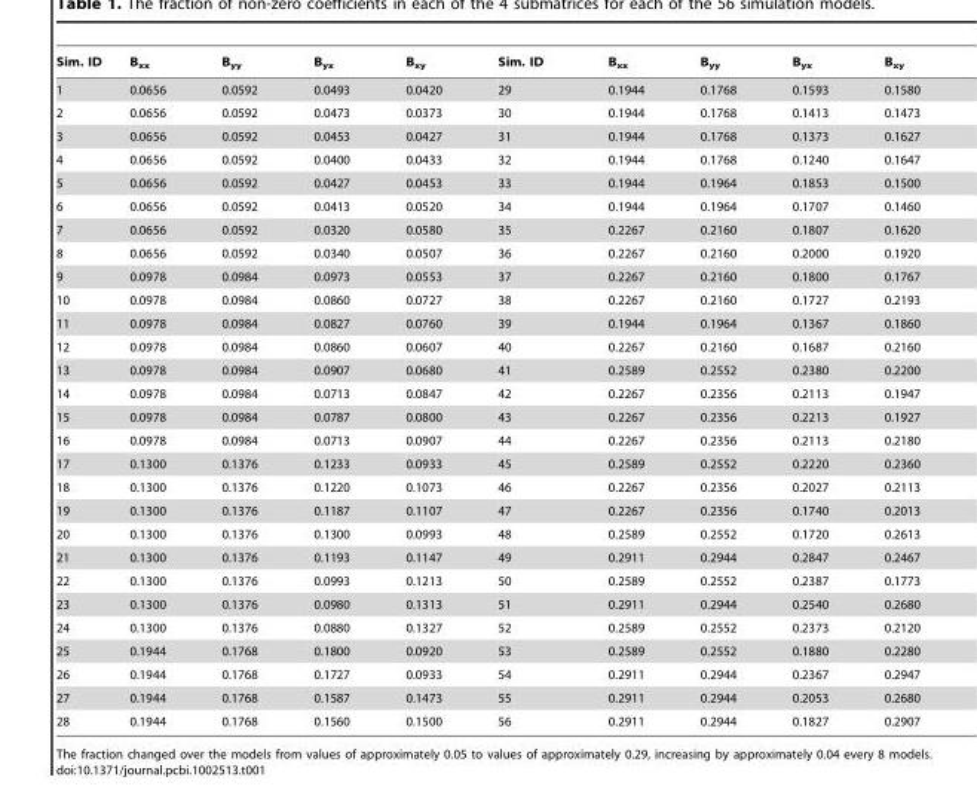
<table><thead><tr><td>Sim. ID</td><td>B<sub>xx</sub></td><td>B<sub>yy</sub></td><td>B<sub>yx</sub></td><td>B<sub>xy</sub></td><td>Sim. ID</td><td>B<sub>xx</sub></td><td>B<sub>yy</sub></td><td>B<sub>yx</sub></td><td>B<sub>xy</sub></td></tr></thead><tbody><tr><td>1</td><td>0.0656</td><td>0.0592</td><td>0.0493</td><td>0.0420</td><td>29</td><td>0.1944</td><td>0.1768</td><td>0.1593</td><td>0.1580</td></tr><tr><td>2</td><td>0.0656</td><td>0.0592</td><td>0.0473</td><td>0.0373</td><td>30</td><td>0.1944</td><td>0.1768</td><td>0.1413</td><td>0.1473</td></tr><tr><td>3</td><td>0.0656</td><td>0.0592</td><td>0.0453</td><td>0.0427</td><td>31</td><td>0.1944</td><td>0.1768</td><td>0.1373</td><td>0.1627</td></tr><tr><td>4</td><td>0.0656</td><td>0.0592</td><td>0.0400</td><td>0.0433</td><td>32</td><td>0.1944</td><td>0.1768</td><td>0.1240</td><td>0.1647</td></tr><tr><td>5</td><td>0.0656</td><td>0.0592</td><td>0.0427</td><td>0.0453</td><td>33</td><td>0.1944</td><td>0.1964</td><td>0.1853</td><td>0.1500</td></tr><tr><td>6</td><td>0.0656</td><td>0.0592</td><td>0.0413</td><td>0.0520</td><td>34</td><td>0.1944</td><td>0.1964</td><td>0.1707</td><td>0.1460</td></tr><tr><td>7</td><td>0.0656</td><td>0.0592</td><td>0.0320</td><td>0.0580</td><td>35</td><td>0.2267</td><td>0.2160</td><td>0.1807</td><td>0.1620</td></tr><tr><td>8</td><td>0.0656</td><td>0.0592</td><td>0.0340</td><td>0.0507</td><td>36</td><td>0.2267</td><td>0.2160</td><td>0.2000</td><td>0.1920</td></tr><tr><td>9</td><td>0.0978</td><td>0.0984</td><td>0.0973</td><td>0.0553</td><td>37</td><td>0.2267</td><td>0.2160</td><td>0.1800</td><td>0.1767</td></tr><tr><td>10</td><td>0.0978</td><td>0.0984</td><td>0.0860</td><td>0.0727</td><td>38</td><td>0.2267</td><td>0.2160</td><td>0.1727</td><td>0.2193</td></tr><tr><td>11</td><td>0.0978</td><td>0.0984</td><td>0.0827</td><td>0.0760</td><td>39</td><td>0.1944</td><td>0.1964</td><td>0.1367</td><td>0.1860</td></tr><tr><td>12</td><td>0.0978</td><td>0.0984</td><td>0.0860</td><td>0.0607</td><td>40</td><td>0.2267</td><td>0.2160</td><td>0.1687</td><td>0.2160</td></tr><tr><td>13</td><td>0.0978</td><td>0.0984</td><td>0.0907</td><td>0.0680</td><td>41</td><td>0.2589</td><td>0.2552</td><td>0.2380</td><td>0.2200</td></tr><tr><td>14</td><td>0.0978</td><td>0.0984</td><td>0.0713</td><td>0.0847</td><td>42</td><td>0.2267</td><td>0.2356</td><td>0.2113</td><td>0.1947</td></tr><tr><td>15</td><td>0.0978</td><td>0.0984</td><td>0.0787</td><td>0.0800</td><td>43</td><td>0.2267</td><td>0.2356</td><td>0.2213</td><td>0.1927</td></tr><tr><td>16</td><td>0.0978</td><td>0.0984</td><td>0.0713</td><td>0.0907</td><td>44</td><td>0.2267</td><td>0.2356</td><td>0.2113</td><td>0.2180</td></tr><tr><td>17</td><td>0.1300</td><td>0.1376</td><td>0.1233</td><td>0.0933</td><td>45</td><td>0.2589</td><td>0.2552</td><td>0.2220</td><td>0.2360</td></tr><tr><td>18</td><td>0.1300</td><td>0.1376</td><td>0.1220</td><td>0.1073</td><td>46</td><td>0.2267</td><td>0.2356</td><td>0.2027</td><td>0.2113</td></tr><tr><td>19</td><td>0.1300</td><td>0.1376</td><td>0.1187</td><td>0.1107</td><td>47</td><td>0.2267</td><td>0.2356</td><td>0.1740</td><td>0.2013</td></tr><tr><td>20</td><td>0.1300</td><td>0.1376</td><td>0.1300</td><td>0.0993</td><td>48</td><td>0.2589</td><td>0.2552</td><td>0.1720</td><td>0.2613</td></tr><tr><td>21</td><td>0.1300</td><td>0.1376</td><td>0.1193</td><td>0.1147</td><td>49</td><td>0.2911</td><td>0.2944</td><td>0.2847</td><td>0.2467</td></tr><tr><td>22</td><td>0.1300</td><td>0.1376</td><td>0.0993</td><td>0.1213</td><td>50</td><td>0.2589</td><td>0.2552</td><td>0.2387</td><td>0.1773</td></tr><tr><td>23</td><td>0.1300</td><td>0.1376</td><td>0.0980</td><td>0.1313</td><td>51</td><td>0.2911</td><td>0.2944</td><td>0.2540</td><td>0.2680</td></tr><tr><td>24</td><td>0.1300</td><td>0.1376</td><td>0.0880</td><td>0.1327</td><td>52</td><td>0.2589</td><td>0.2552</td><td>0.2373</td><td>0.2120</td></tr><tr><td>25</td><td>0.1944</td><td>0.1768</td><td>0.1800</td><td>0.0920</td><td>53</td><td>0.2589</td><td>0.2552</td><td>0.1880</td><td>0.2280</td></tr><tr><td>26</td><td>0.1944</td><td>0.1768</td><td>0.1727</td><td>0.0933</td><td>54</td><td>0.2911</td><td>0.2944</td><td>0.2367</td><td>0.2947</td></tr><tr><td>27</td><td>0.1944</td><td>0.1768</td><td>0.1587</td><td>0.1473</td><td>55</td><td>0.2911</td><td>0.2944</td><td>0.2053</td><td>0.2680</td></tr><tr><td>28</td><td>0.1944</td><td>0.1768</td><td>0.1560</td><td>0.1500</td><td>56</td><td>0.2911</td><td>0.2944</td><td>0.1827</td><td>0.2907</td></tr></tbody></table>